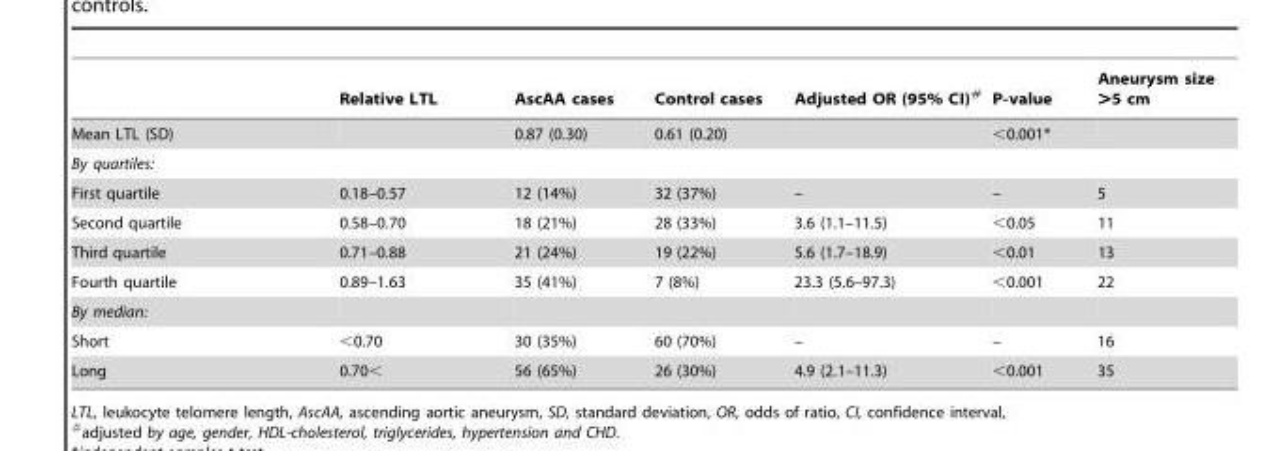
<table><thead><tr><td></td><td>Relative LTL</td><td>AscAA cases</td><td>Control cases</td><td>Adjusted OR (95% CI)#</td><td>P-value</td><td>Aneurysm size &gt;5 cm</td></tr></thead><tbody><tr><td>Mean LTL (SD)</td><td></td><td>0.87 (0.30)</td><td>0.61 (0.20)</td><td></td><td>&lt;0.001*</td><td></td></tr><tr><td colspan="7">By quartiles:</td></tr><tr><td>First quartile</td><td>0.18–0.57</td><td>12 (14%)</td><td>32 (37%)</td><td>–</td><td>–</td><td>5</td></tr><tr><td>Second quartile</td><td>0.58–0.70</td><td>18 (21%)</td><td>28 (33%)</td><td>3.6 (1.1–11.5)</td><td>&lt;0.05</td><td>11</td></tr><tr><td>Third quartile</td><td>0.71–0.88</td><td>21 (24%)</td><td>19 (22%)</td><td>5.6 (1.7–18.9)</td><td>&lt;0.01</td><td>13</td></tr><tr><td>Fourth quartile</td><td>0.89–1.63</td><td>35 (41%)</td><td>7 (8%)</td><td>23.3 (5.6–97.3)</td><td>&lt;0.001</td><td>22</td></tr><tr><td colspan="7">By median:</td></tr><tr><td>Short</td><td>&lt;0.70</td><td>30 (35%)</td><td>60 (70%)</td><td>–</td><td>–</td><td>16</td></tr><tr><td>Long</td><td>0.70&lt;</td><td>56 (65%)</td><td>26 (30%)</td><td>4.9 (2.1–11.3)</td><td>&lt;0.001</td><td>35</td></tr></tbody></table>